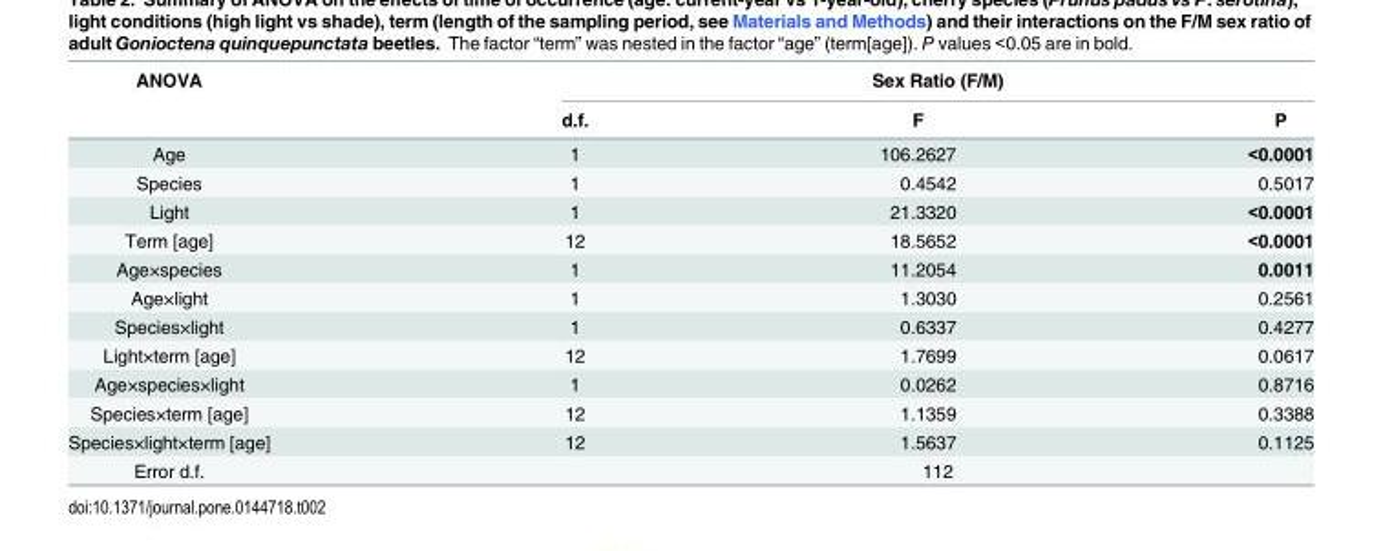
<table><thead><tr><td rowspan="2">ANOVA</td><td colspan="3">Sex Ratio (F/M)</td></tr><tr><td>d.f.</td><td>F</td><td>P</td></tr></thead><tbody><tr><td>Age</td><td>1</td><td>106.2627</td><td>&lt;0.0001</td></tr><tr><td>Species</td><td>1</td><td>0.4542</td><td>0.5017</td></tr><tr><td>Light</td><td>1</td><td>21.3320</td><td>&lt;0.0001</td></tr><tr><td>Term [age]</td><td>12</td><td>18.5652</td><td>&lt;0.0001</td></tr><tr><td>Age×species</td><td>1</td><td>11.2054</td><td>0.0011</td></tr><tr><td>Age×light</td><td>1</td><td>1.3030</td><td>0.2561</td></tr><tr><td>Species×light</td><td>1</td><td>0.6337</td><td>0.4277</td></tr><tr><td>Light×term [age]</td><td>12</td><td>1.7699</td><td>0.0617</td></tr><tr><td>Age×species×light</td><td>1</td><td>0.0262</td><td>0.8716</td></tr><tr><td>Species×term [age]</td><td>12</td><td>1.1359</td><td>0.3388</td></tr><tr><td>Species×light×term [age]</td><td>12</td><td>1.5637</td><td>0.1125</td></tr><tr><td>Error d.f.</td><td colspan="3">112</td></tr></tbody></table>